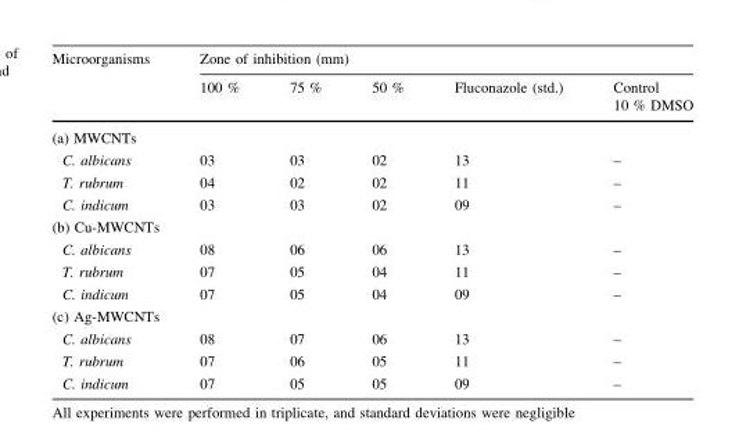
<table><thead><tr><td rowspan="2">Microorganisms</td><td colspan="5">Zone of inhibition (mm)</td></tr><tr><td>100 %</td><td>75 %</td><td>50 %</td><td>Fluconazole (std.)</td><td>Control 10 % DMSO</td></tr></thead><tbody><tr><td colspan="6">(a) MWCNTs</td></tr><tr><td>C. albicans</td><td>03</td><td>03</td><td>02</td><td>13</td><td>–</td></tr><tr><td>T. rubrum</td><td>04</td><td>02</td><td>02</td><td>11</td><td>–</td></tr><tr><td>C. indicum</td><td>03</td><td>03</td><td>02</td><td>09</td><td>–</td></tr><tr><td colspan="6">(b) Cu-MWCNTs</td></tr><tr><td>C. albicans</td><td>08</td><td>06</td><td>06</td><td>13</td><td>–</td></tr><tr><td>T. rubrum</td><td>07</td><td>05</td><td>04</td><td>11</td><td>–</td></tr><tr><td>C. indicum</td><td>07</td><td>05</td><td>04</td><td>09</td><td>–</td></tr><tr><td colspan="6">(c) Ag-MWCNTs</td></tr><tr><td>C. albicans</td><td>08</td><td>07</td><td>06</td><td>13</td><td>–</td></tr><tr><td>T. rubrum</td><td>07</td><td>06</td><td>05</td><td>11</td><td>–</td></tr><tr><td>C. indicum</td><td>07</td><td>05</td><td>05</td><td>09</td><td>–</td></tr></tbody></table>